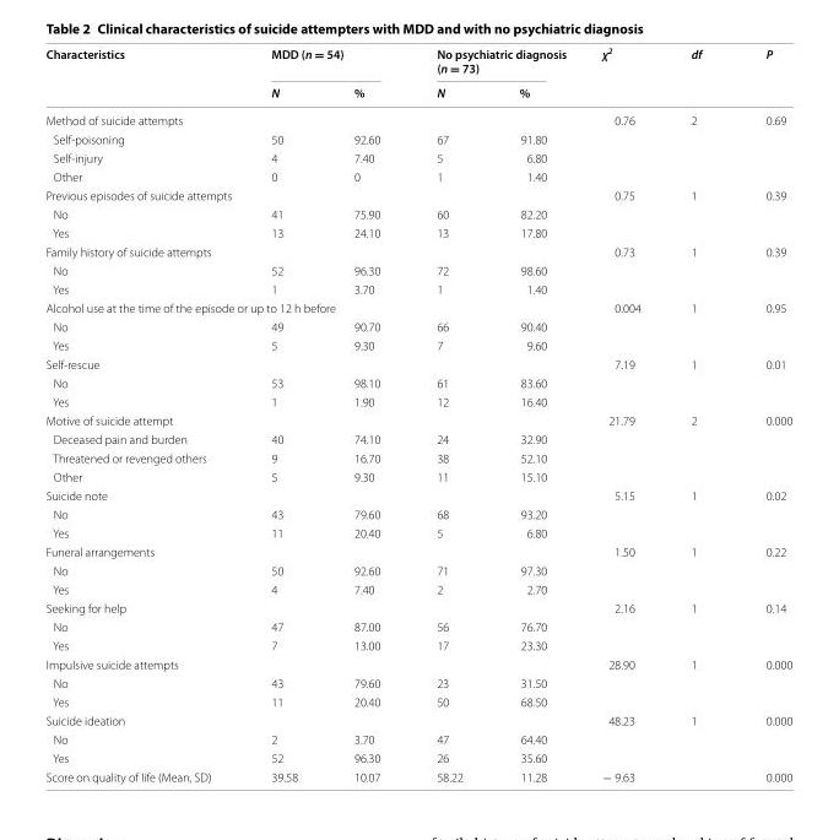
<table><thead><tr><td rowspan="2">Characteristics</td><td colspan="2">MDD (n = 54)</td><td colspan="2">No psychiatric diagnosis (n = 73)</td><td rowspan="2">χ<sup>2</sup></td><td rowspan="2">df</td><td rowspan="2">P</td></tr><tr><td>N</td><td>%</td><td>N</td><td>%</td></tr></thead><tbody><tr><td colspan="5">Method of suicide attempts</td><td>0.76</td><td>2</td><td>0.69</td></tr><tr><td>Self-poisoning</td><td>50</td><td>92.60</td><td>67</td><td>91.80</td><td></td><td></td><td></td></tr><tr><td>Self-injury</td><td>4</td><td>7.40</td><td>5</td><td>6.80</td><td></td><td></td><td></td></tr><tr><td>Other</td><td>0</td><td>0</td><td>1</td><td>1.40</td><td></td><td></td><td></td></tr><tr><td colspan="5">Previous episodes of suicide attempts</td><td>0.75</td><td>1</td><td>0.39</td></tr><tr><td>No</td><td>41</td><td>75.90</td><td>60</td><td>82.20</td><td></td><td></td><td></td></tr><tr><td>Yes</td><td>13</td><td>24.10</td><td>13</td><td>17.80</td><td></td><td></td><td></td></tr><tr><td colspan="5">Family history of suicide attempts</td><td>0.73</td><td>1</td><td>0.39</td></tr><tr><td>No</td><td>52</td><td>96.30</td><td>72</td><td>98.60</td><td></td><td></td><td></td></tr><tr><td>Yes</td><td>1</td><td>3.70</td><td>1</td><td>1.40</td><td></td><td></td><td></td></tr><tr><td colspan="5">Alcohol use at the time of the episode or up to 12 h before</td><td>0.004</td><td>1</td><td>0.95</td></tr><tr><td>No</td><td>49</td><td>90.70</td><td>66</td><td>90.40</td><td></td><td></td><td></td></tr><tr><td>Yes</td><td>5</td><td>9.30</td><td>7</td><td>9.60</td><td></td><td></td><td></td></tr><tr><td colspan="5">Self-rescue</td><td>7.19</td><td>1</td><td>0.01</td></tr><tr><td>No</td><td>53</td><td>98.10</td><td>61</td><td>83.60</td><td></td><td></td><td></td></tr><tr><td>Yes</td><td>1</td><td>1.90</td><td>12</td><td>16.40</td><td></td><td></td><td></td></tr><tr><td colspan="5">Motive of suicide attempt</td><td>21.79</td><td>2</td><td>0.000</td></tr><tr><td>Deceased pain and burden</td><td>40</td><td>74.10</td><td>24</td><td>32.90</td><td></td><td></td><td></td></tr><tr><td>Threatened or revenged others</td><td>9</td><td>16.70</td><td>38</td><td>52.10</td><td></td><td></td><td></td></tr><tr><td>Other</td><td>5</td><td>9.30</td><td>11</td><td>15.10</td><td></td><td></td><td></td></tr><tr><td colspan="5">Suicide note</td><td>5.15</td><td>1</td><td>0.02</td></tr><tr><td>No</td><td>43</td><td>79.60</td><td>68</td><td>93.20</td><td></td><td></td><td></td></tr><tr><td>Yes</td><td>11</td><td>20.40</td><td>5</td><td>6.80</td><td></td><td></td><td></td></tr><tr><td colspan="5">Funeral arrangements</td><td>1.50</td><td>1</td><td>0.22</td></tr><tr><td>No</td><td>50</td><td>92.60</td><td>71</td><td>97.30</td><td></td><td></td><td></td></tr><tr><td>Yes</td><td>4</td><td>7.40</td><td>2</td><td>2.70</td><td></td><td></td><td></td></tr><tr><td colspan="5">Seeking for help</td><td>2.16</td><td>1</td><td>0.14</td></tr><tr><td>No</td><td>47</td><td>87.00</td><td>56</td><td>76.70</td><td></td><td></td><td></td></tr><tr><td>Yes</td><td>7</td><td>13.00</td><td>17</td><td>23.30</td><td></td><td></td><td></td></tr><tr><td colspan="5">Impulsive suicide attempts</td><td>28.90</td><td>1</td><td>0.000</td></tr><tr><td>No</td><td>43</td><td>79.60</td><td>23</td><td>31.50</td><td></td><td></td><td></td></tr><tr><td>Yes</td><td>11</td><td>20.40</td><td>50</td><td>68.50</td><td></td><td></td><td></td></tr><tr><td colspan="5">Suicide ideation</td><td>48.23</td><td>1</td><td>0.000</td></tr><tr><td>No</td><td>2</td><td>3.70</td><td>47</td><td>64.40</td><td></td><td></td><td></td></tr><tr><td>Yes</td><td>52</td><td>96.30</td><td>26</td><td>35.60</td><td></td><td></td><td></td></tr><tr><td>Score on quality of life (Mean, SD)</td><td>39.58</td><td>10.07</td><td>58.22</td><td>11.28</td><td>− 9.63</td><td></td><td>0.000</td></tr></tbody></table>